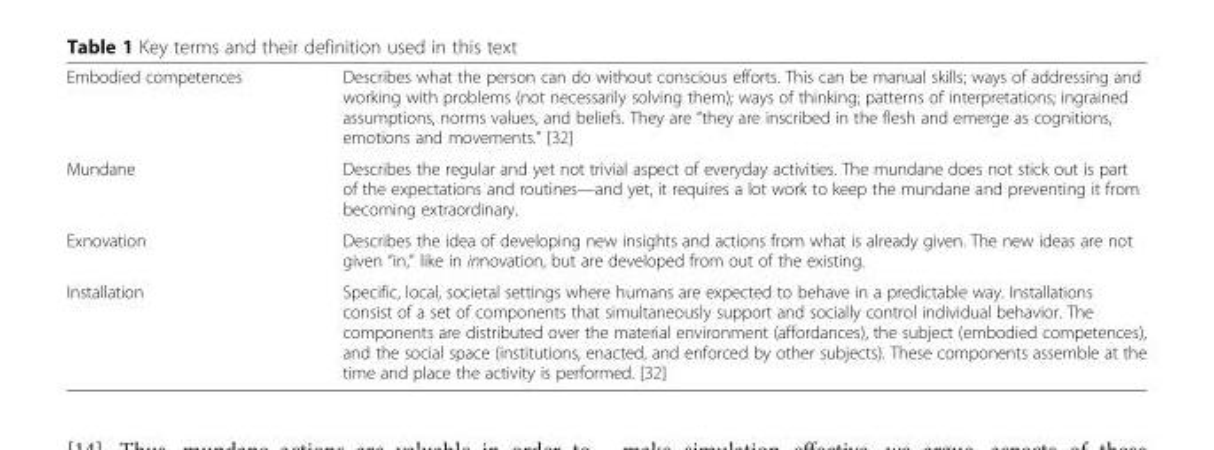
<table><tbody><tr><td>Embodied competences</td><td>Describes what the person can do without conscious efforts. This can be manual skills; ways of addressing and working with problems (not necessarily solving them); ways of thinking; patterns of interpretations; ingrained assumptions, norms values, and beliefs. They are “they are inscribed in the flesh and emerge as cognitions, emotions and movements.” [32]</td></tr><tr><td>Mundane</td><td>Describes the regular and yet not trivial aspect of everyday activities. The mundane does not stick out is part of the expectations and routines—and yet, it requires a lot work to keep the mundane and preventing it from becoming extraordinary.</td></tr><tr><td>Exnovation</td><td>Describes the idea of developing new insights and actions from what is already given. The new ideas are not given “in,” like in innovation, but are developed from out of the existing.</td></tr><tr><td>Installation</td><td>Specific, local, societal settings where humans are expected to behave in a predictable way. Installations consist of a set of components that simultaneously support and socially control individual behavior. The components are distributed over the material environment (affordances), the subject (embodied competences), and the social space (institutions, enacted, and enforced by other subjects). These components assemble at the time and place the activity is performed. [32]</td></tr></tbody></table>